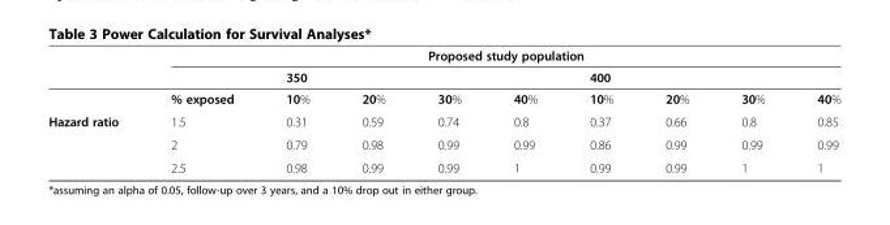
<table><thead><tr><td rowspan="2"></td><td colspan="9">Proposed study population</td></tr><tr><td></td><td>350</td><td></td><td></td><td></td><td>400</td><td></td><td></td><td></td></tr></thead><tbody><tr><td></td><td>% exposed</td><td>10%</td><td>20%</td><td>30%</td><td>40%</td><td>10%</td><td>20%</td><td>30%</td><td>40%</td></tr><tr><td rowspan="3">Hazard ratio</td><td>1.5</td><td>0.31</td><td>0.59</td><td>0.74</td><td>0.8</td><td>0.37</td><td>0.66</td><td>0.8</td><td>0.85</td></tr><tr><td>2</td><td>0.79</td><td>0.98</td><td>0.99</td><td>0.99</td><td>0.86</td><td>0.99</td><td>0.99</td><td>0.99</td></tr><tr><td>2.5</td><td>0.98</td><td>0.99</td><td>0.99</td><td>1</td><td>0.99</td><td>0.99</td><td>1</td><td>1</td></tr></tbody></table>